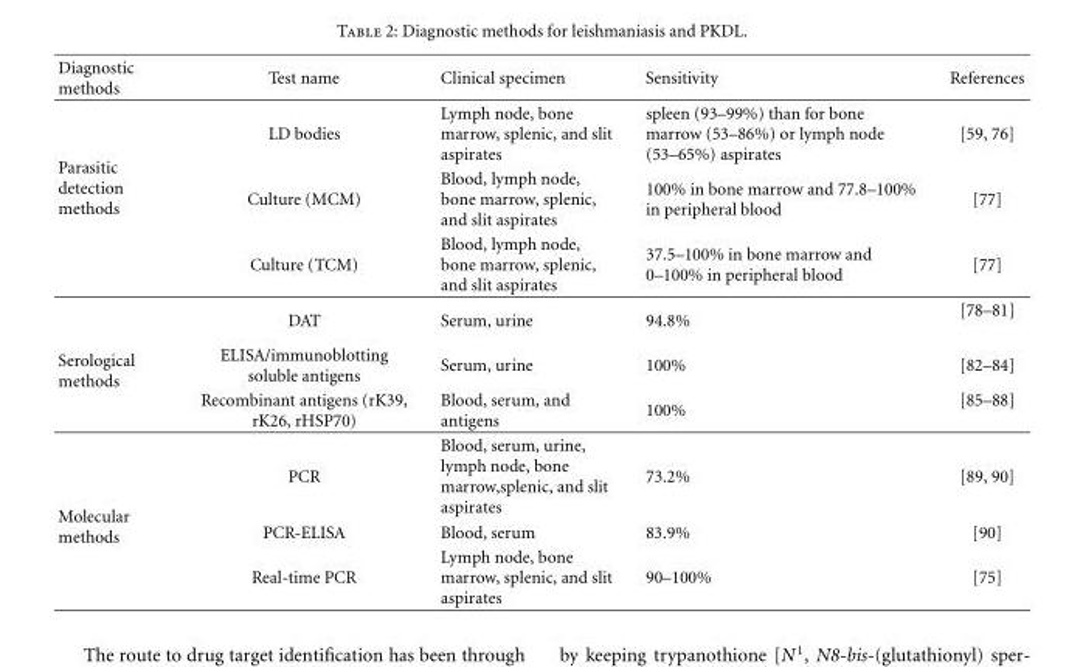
<table><thead><tr><td>Diagnostic methods</td><td>Test name</td><td>Clinical specimen</td><td>Sensitivity</td><td>References</td></tr></thead><tbody><tr><td rowspan="3">Parasitic detection methods</td><td>LD bodies</td><td>Lymph node, bone marrow, splenic, and slit aspirates</td><td>spleen (93–99%) than for bone marrow (53–86%) or lymph node (53–65%) aspirates</td><td>[59, 76]</td></tr><tr><td>Culture (MCM)</td><td>Blood, lymph node, bone marrow, splenic, and slit aspirates</td><td>100% in bone marrow and 77.8–100% in peripheral blood</td><td>[77]</td></tr><tr><td>Culture (TCM)</td><td>Blood, lymph node, bone marrow, splenic, and slit aspirates</td><td>37.5–100% in bone marrow and 0–100% in peripheral blood</td><td>[77]</td></tr><tr><td rowspan="3">Serological methods</td><td>DAT</td><td>Serum, urine</td><td>94.8%</td><td>[78–81]</td></tr><tr><td>ELISA/immunoblotting soluble antigens</td><td>Serum, urine</td><td>100%</td><td>[82–84]</td></tr><tr><td>Recombinant antigens (rK39, rK26, rHSP70)</td><td>Blood, serum, and antigens</td><td>100%</td><td>[85–88]</td></tr><tr><td rowspan="3">Molecular methods</td><td>PCR</td><td>Blood, serum, urine, lymph node, bone marrow,splenic, and slit aspirates</td><td>73.2%</td><td>[89, 90]</td></tr><tr><td>PCR-ELISA</td><td>Blood, serum</td><td>83.9%</td><td>[90]</td></tr><tr><td>Real-time PCR</td><td>Lymph node, bone marrow, splenic, and slit aspirates</td><td>90–100%</td><td>[75]</td></tr></tbody></table>